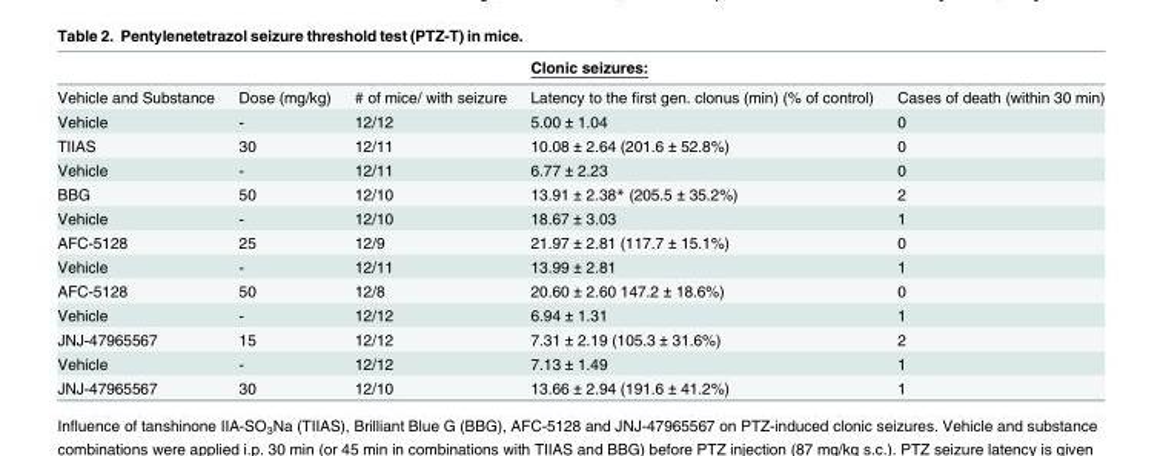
<table><thead><tr><td></td><td></td><td></td><td>Clonic seizures:</td><td></td></tr></thead><tbody><tr><td>Vehicle and Substance</td><td>Dose (mg/kg)</td><td># of mice/ with seizure</td><td>Latency to the first gen. clonus (min) (% of control)</td><td>Cases of death (within 30 min)</td></tr><tr><td>Vehicle</td><td>-</td><td>12/12</td><td>5.00 ± 1.04</td><td>0</td></tr><tr><td>TIIAS</td><td>30</td><td>12/11</td><td>10.08 ± 2.64 (201.6 ± 52.8%)</td><td>0</td></tr><tr><td>Vehicle</td><td>-</td><td>12/11</td><td>6.77 ± 2.23</td><td>0</td></tr><tr><td>BBG</td><td>50</td><td>12/10</td><td>13.91 ± 2.38* (205.5 ± 35.2%)</td><td>2</td></tr><tr><td>Vehicle</td><td>-</td><td>12/10</td><td>18.67 ± 3.03</td><td>1</td></tr><tr><td>AFC-5128</td><td>25</td><td>12/9</td><td>21.97 ± 2.81 (117.7 ± 15.1%)</td><td>0</td></tr><tr><td>Vehicle</td><td>-</td><td>12/11</td><td>13.99 ± 2.81</td><td>1</td></tr><tr><td>AFC-5128</td><td>50</td><td>12/8</td><td>20.60 ± 2.60 147.2 ± 18.6%)</td><td>0</td></tr><tr><td>Vehicle</td><td>-</td><td>12/12</td><td>6.94 ± 1.31</td><td>1</td></tr><tr><td>JNJ-47965567</td><td>15</td><td>12/12</td><td>7.31 ± 2.19 (105.3 ± 31.6%)</td><td>2</td></tr><tr><td>Vehicle</td><td>-</td><td>12/12</td><td>7.13 ± 1.49</td><td>1</td></tr><tr><td>JNJ-47965567</td><td>30</td><td>12/10</td><td>13.66 ± 2.94 (191.6 ± 41.2%)</td><td>1</td></tr></tbody></table>